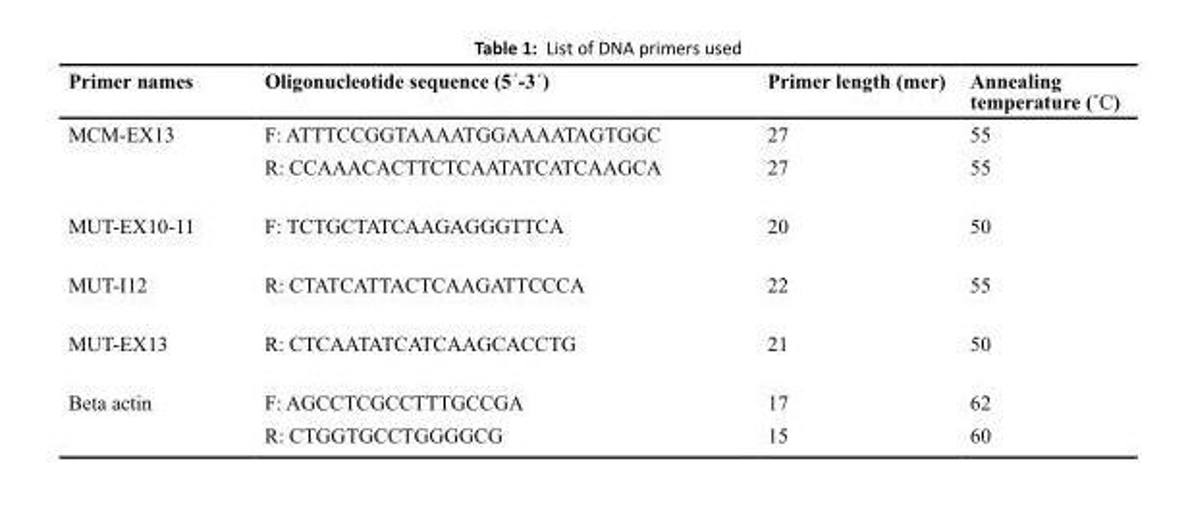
<table><thead><tr><td>Primer names</td><td>Oligonucleotide sequence (5´-3´)</td><td>Primer length (mer)</td><td>Annealing temperature (˚C)</td></tr></thead><tbody><tr><td rowspan="2">MCM-EX13</td><td>F: ATTTCCGGTAAAATGGAAAATAGTGGC</td><td>27</td><td>55</td></tr><tr><td>R: CCAAACACTTCTCAATATCATCAAGCA</td><td>27</td><td>55</td></tr><tr><td>MUT-EX10-11</td><td>F: TCTGCTATCAAGAGGGTTCA</td><td>20</td><td>50</td></tr><tr><td>MUT-I12</td><td>R: CTATCATTACTCAAGATTCCCA</td><td>22</td><td>55</td></tr><tr><td>MUT-EX13</td><td>R: CTCAATATCATCAAGCACCTG</td><td>21</td><td>50</td></tr><tr><td rowspan="2">Beta actin</td><td>F: AGCCTCGCCTTTGCCGA</td><td>17</td><td>62</td></tr><tr><td>R: CTGGTGCCTGGGGCG</td><td>15</td><td>60</td></tr></tbody></table>